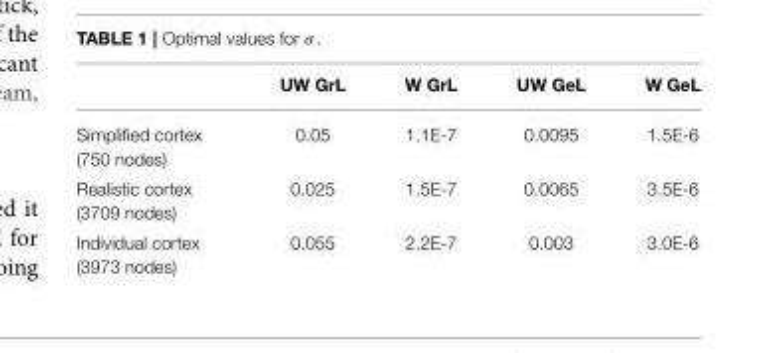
<table><thead><tr><td></td><td>UW GrL</td><td>W GrL</td><td>UW GeL</td><td>W GeL</td></tr></thead><tbody><tr><td>Simplified cortex (750 nodes)</td><td>0.05</td><td>1.1E-7</td><td>0.0095</td><td>1.5E-6</td></tr><tr><td>Realistic cortex (3709 nodes)</td><td>0.025</td><td>1.5E-7</td><td>0.0065</td><td>3.5E-6</td></tr><tr><td>Individual cortex (3973 nodes)</td><td>0.055</td><td>2.2E-7</td><td>0.003</td><td>3.0E-6</td></tr></tbody></table>